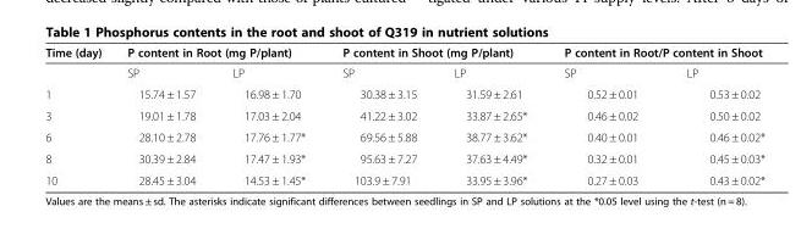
<table><thead><tr><td rowspan="2">Time (day)</td><td colspan="2">P content in Root (mg P/plant)</td><td colspan="2">P content in Shoot (mg P/plant)</td><td colspan="2">P content in Root/P content in Shoot</td></tr><tr><td>SP</td><td>LP</td><td>SP</td><td>LP</td><td>SP</td><td>LP</td></tr></thead><tbody><tr><td>1</td><td>15.74 ± 1.57</td><td>16.98 ± 1.70</td><td>30.38 ± 3.15</td><td>31.59 ± 2.61</td><td>0.52 ± 0.01</td><td>0.53 ± 0.02</td></tr><tr><td>3</td><td>19.01 ± 1.78</td><td>17.03 ± 2.04</td><td>41.22 ± 3.02</td><td>33.87 ± 2.65*</td><td>0.46 ± 0.02</td><td>0.50 ± 0.02</td></tr><tr><td>6</td><td>28.10 ± 2.78</td><td>17.76 ± 1.77*</td><td>69.56 ± 5.88</td><td>38.77 ± 3.62*</td><td>0.40 ± 0.01</td><td>0.46 ± 0.02*</td></tr><tr><td>8</td><td>30.39 ± 2.84</td><td>17.47 ± 1.93*</td><td>95.63 ± 7.27</td><td>37.63 ± 4.49*</td><td>0.32 ± 0.01</td><td>0.45 ± 0.03*</td></tr><tr><td>10</td><td>28.45 ± 3.04</td><td>14.53 ± 1.45*</td><td>103.9 ± 7.91</td><td>33.95 ± 3.96*</td><td>0.27 ± 0.03</td><td>0.43 ± 0.02*</td></tr></tbody></table>